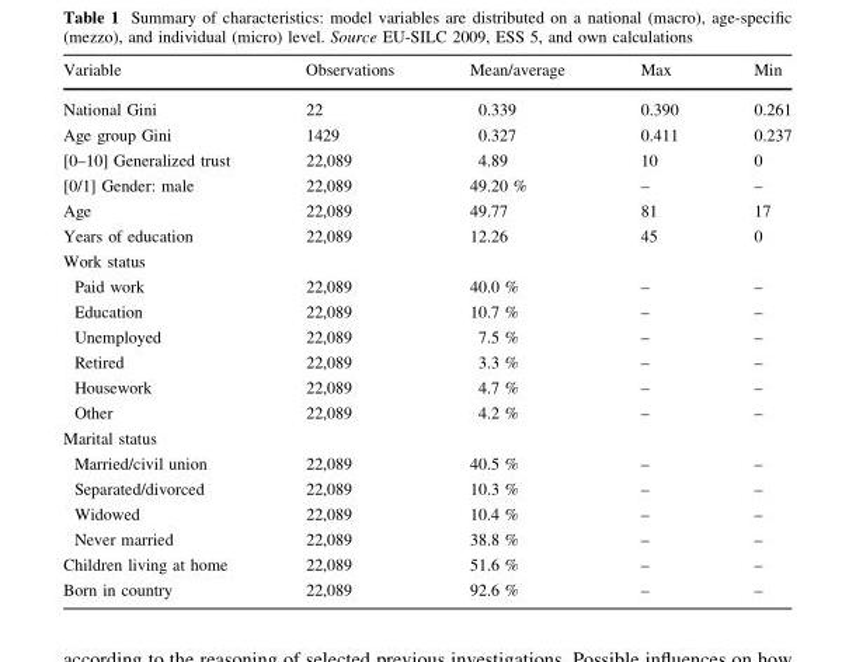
<table><thead><tr><td>Variable</td><td>Observations</td><td>Mean/average</td><td>Max</td><td>Min</td></tr></thead><tbody><tr><td>National Gini</td><td>22</td><td>0.339</td><td>0.390</td><td>0.261</td></tr><tr><td>Age group Gini</td><td>1429</td><td>0.327</td><td>0.411</td><td>0.237</td></tr><tr><td>[0–10] Generalized trust</td><td>22,089</td><td>4.89</td><td>10</td><td>0</td></tr><tr><td>[0/1] Gender: male</td><td>22,089</td><td>49.20 %</td><td>–</td><td>–</td></tr><tr><td>Age</td><td>22,089</td><td>49.77</td><td>81</td><td>17</td></tr><tr><td>Years of education</td><td>22,089</td><td>12.26</td><td>45</td><td>0</td></tr><tr><td colspan="5">Work status</td></tr><tr><td>Paid work</td><td>22,089</td><td>40.0 %</td><td>–</td><td>–</td></tr><tr><td>Education</td><td>22,089</td><td>10.7 %</td><td>–</td><td>–</td></tr><tr><td>Unemployed</td><td>22,089</td><td>7.5 %</td><td>–</td><td>–</td></tr><tr><td>Retired</td><td>22,089</td><td>3.3 %</td><td>–</td><td>–</td></tr><tr><td>Housework</td><td>22,089</td><td>4.7 %</td><td>–</td><td>–</td></tr><tr><td>Other</td><td>22,089</td><td>4.2 %</td><td>–</td><td>–</td></tr><tr><td colspan="5">Marital status</td></tr><tr><td>Married/civil union</td><td>22,089</td><td>40.5 %</td><td>–</td><td>–</td></tr><tr><td>Separated/divorced</td><td>22,089</td><td>10.3 %</td><td>–</td><td>–</td></tr><tr><td>Widowed</td><td>22,089</td><td>10.4 %</td><td>–</td><td>–</td></tr><tr><td>Never married</td><td>22,089</td><td>38.8 %</td><td>–</td><td>–</td></tr><tr><td>Children living at home</td><td>22,089</td><td>51.6 %</td><td>–</td><td>–</td></tr><tr><td>Born in country</td><td>22,089</td><td>92.6 %</td><td>–</td><td>–</td></tr></tbody></table>